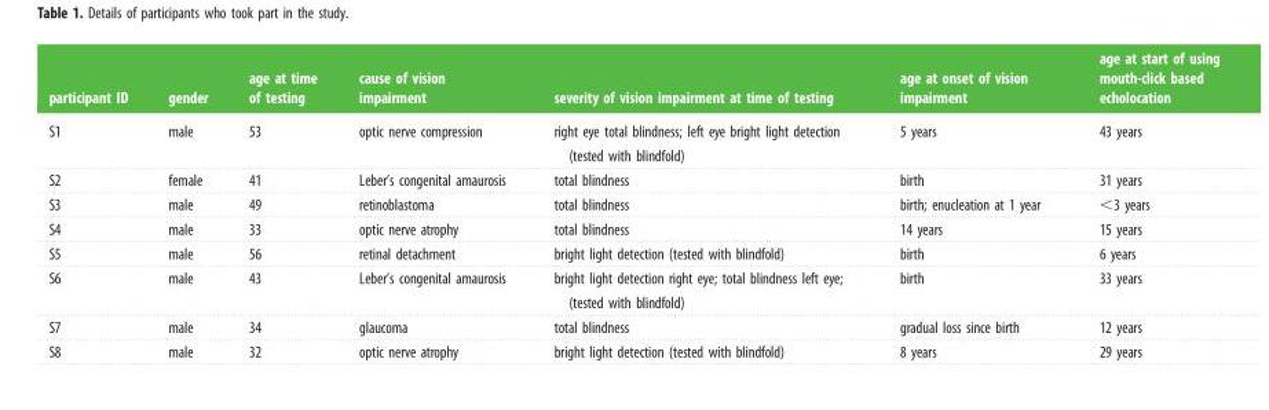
<table><thead><tr><td>participant ID</td><td>gender</td><td>age at time of testing</td><td>cause of vision impairment</td><td>severity of vision impairment at time of testing</td><td>age at onset of vision impairment</td><td>age at start of using mouth-click based echolocation</td></tr></thead><tbody><tr><td>S1</td><td>male</td><td>53</td><td>optic nerve compression</td><td>right eye total blindness; left eye bright light detection (tested with blindfold)</td><td>5 years</td><td>43 years</td></tr><tr><td>S2</td><td>female</td><td>41</td><td>Leber’s congenital amaurosis</td><td>total blindness</td><td>birth</td><td>31 years</td></tr><tr><td>S3</td><td>male</td><td>49</td><td>retinoblastoma</td><td>total blindness</td><td>birth; enucleation at 1 year</td><td>&lt;3 years</td></tr><tr><td>S4</td><td>male</td><td>33</td><td>optic nerve atrophy</td><td>total blindness</td><td>14 years</td><td>15 years</td></tr><tr><td>S5</td><td>male</td><td>56</td><td>retinal detachment</td><td>bright light detection (tested with blindfold)</td><td>birth</td><td>6 years</td></tr><tr><td>S6</td><td>male</td><td>43</td><td>Leber’s congenital amaurosis</td><td>bright light detection right eye; total blindness left eye; (tested with blindfold)</td><td>birth</td><td>33 years</td></tr><tr><td>S7</td><td>male</td><td>34</td><td>glaucoma</td><td>total blindness</td><td>gradual loss since birth</td><td>12 years</td></tr><tr><td>S8</td><td>male</td><td>32</td><td>optic nerve atrophy</td><td>bright light detection (tested with blindfold)</td><td>8 years</td><td>29 years</td></tr></tbody></table>